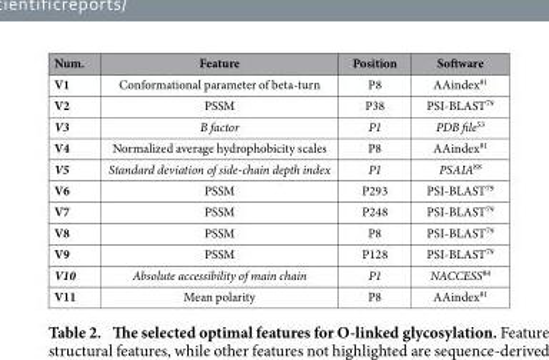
<table><thead><tr><td>Num.</td><td>Feature</td><td>Position</td><td>Software</td></tr></thead><tbody><tr><td>V1</td><td>Conformational parameter of beta-turn</td><td>P8</td><td>AAindex<sup>81</sup></td></tr><tr><td>V2</td><td>PSSM</td><td>P38</td><td>PSI-BLAST<sup>79</sup></td></tr><tr><td>V3</td><td>B factor</td><td>P1</td><td>PDB file<sup>53</sup></td></tr><tr><td>V4</td><td>Normalized average hydrophobicity scales</td><td>P8</td><td>AAindex<sup>81</sup></td></tr><tr><td>V5</td><td>Standard deviation of side-chain depth index</td><td>P1</td><td>PSAIA<sup>88</sup></td></tr><tr><td>V6</td><td>PSSM</td><td>P293</td><td>PSI-BLAST<sup>79</sup></td></tr><tr><td>V7</td><td>PSSM</td><td>P248</td><td>PSI-BLAST<sup>79</sup></td></tr><tr><td>V8</td><td>PSSM</td><td>P8</td><td>PSI-BLAST<sup>79</sup></td></tr><tr><td>V9</td><td>PSSM</td><td>P128</td><td>PSI-BLAST<sup>79</sup></td></tr><tr><td>V10</td><td>Absolute accessibility of main chain</td><td>P1</td><td>NACCESS<sup>84</sup></td></tr><tr><td>V11</td><td>Mean polarity</td><td>P8</td><td>AAindex<sup>81</sup></td></tr></tbody></table>